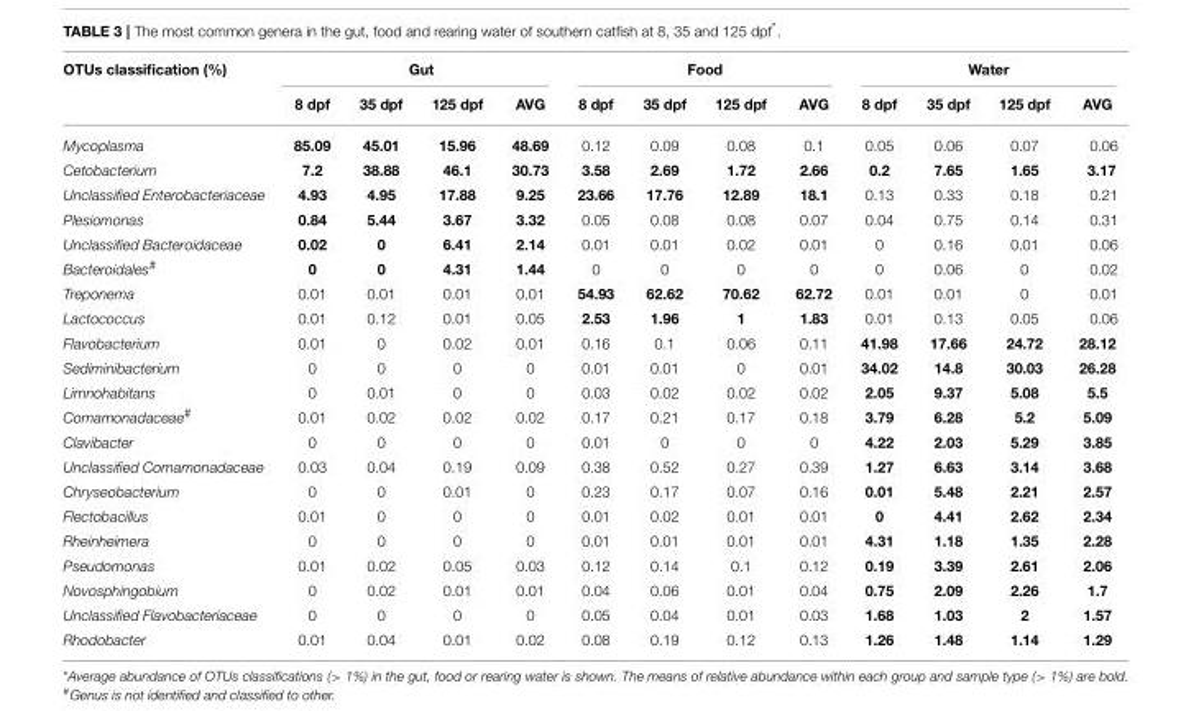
<table><thead><tr><td rowspan="2">OTUs classification (%)</td><td colspan="4">Gut</td><td colspan="4">Food</td><td colspan="4">Water</td></tr><tr><td>8 dpf</td><td>35 dpf</td><td>125 dpf</td><td>AVG</td><td>8 dpf</td><td>35 dpf</td><td>125 dpf</td><td>AVG</td><td>8 dpf</td><td>35 dpf</td><td>125 dpf</td><td>AVG</td></tr></thead><tbody><tr><td>Mycoplasma</td><td>85.09</td><td>45.01</td><td>15.96</td><td>48.69</td><td>0.12</td><td>0.09</td><td>0.08</td><td>0.1</td><td>0.05</td><td>0.06</td><td>0.07</td><td>0.06</td></tr><tr><td>Cetobacterium</td><td>7.2</td><td>38.88</td><td>46.1</td><td>30.73</td><td>3.58</td><td>2.69</td><td>1.72</td><td>2.66</td><td>0.2</td><td>7.65</td><td>1.65</td><td>3.17</td></tr><tr><td>Unclassified Enterobacteriaceae</td><td>4.93</td><td>4.95</td><td>17.88</td><td>9.25</td><td>23.66</td><td>17.76</td><td>12.89</td><td>18.1</td><td>0.13</td><td>0.33</td><td>0.18</td><td>0.21</td></tr><tr><td>Plesiomonas</td><td>0.84</td><td>5.44</td><td>3.67</td><td>3.32</td><td>0.05</td><td>0.08</td><td>0.08</td><td>0.07</td><td>0.04</td><td>0.75</td><td>0.14</td><td>0.31</td></tr><tr><td>Unclassified Bacteroidaceae</td><td>0.02</td><td>0</td><td>6.41</td><td>2.14</td><td>0.01</td><td>0.01</td><td>0.02</td><td>0.01</td><td>0</td><td>0.16</td><td>0.01</td><td>0.06</td></tr><tr><td>Bacteroidales<sup>#</sup></td><td>0</td><td>0</td><td>4.31</td><td>1.44</td><td>0</td><td>0</td><td>0</td><td>0</td><td>0</td><td>0.06</td><td>0</td><td>0.02</td></tr><tr><td>Treponema</td><td>0.01</td><td>0.01</td><td>0.01</td><td>0.01</td><td>54.93</td><td>62.62</td><td>70.62</td><td>62.72</td><td>0.01</td><td>0.01</td><td>0</td><td>0.01</td></tr><tr><td>Lactococcus</td><td>0.01</td><td>0.12</td><td>0.01</td><td>0.05</td><td>2.53</td><td>1.96</td><td>1</td><td>1.83</td><td>0.01</td><td>0.13</td><td>0.05</td><td>0.06</td></tr><tr><td>Flavobacterium</td><td>0.01</td><td>0</td><td>0.02</td><td>0.01</td><td>0.16</td><td>0.1</td><td>0.06</td><td>0.11</td><td>41.98</td><td>17.66</td><td>24.72</td><td>28.12</td></tr><tr><td>Sediminibacterium</td><td>0</td><td>0</td><td>0</td><td>0</td><td>0.01</td><td>0.01</td><td>0</td><td>0.01</td><td>34.02</td><td>14.8</td><td>30.03</td><td>26.28</td></tr><tr><td>Limnohabitans</td><td>0</td><td>0.01</td><td>0</td><td>0</td><td>0.03</td><td>0.02</td><td>0.02</td><td>0.02</td><td>2.05</td><td>9.37</td><td>5.08</td><td>5.5</td></tr><tr><td>Comamonadaceae<sup>#</sup></td><td>0.01</td><td>0.02</td><td>0.02</td><td>0.02</td><td>0.17</td><td>0.21</td><td>0.17</td><td>0.18</td><td>3.79</td><td>6.28</td><td>5.2</td><td>5.09</td></tr><tr><td>Clavibacter</td><td>0</td><td>0</td><td>0</td><td>0</td><td>0.01</td><td>0</td><td>0</td><td>0</td><td>4.22</td><td>2.03</td><td>5.29</td><td>3.85</td></tr><tr><td>Unclassified Comamonadaceae</td><td>0.03</td><td>0.04</td><td>0.19</td><td>0.09</td><td>0.38</td><td>0.52</td><td>0.27</td><td>0.39</td><td>1.27</td><td>6.63</td><td>3.14</td><td>3.68</td></tr><tr><td>Chryseobacterium</td><td>0</td><td>0</td><td>0.01</td><td>0</td><td>0.23</td><td>0.17</td><td>0.07</td><td>0.16</td><td>0.01</td><td>5.48</td><td>2.21</td><td>2.57</td></tr><tr><td>Flectobacillus</td><td>0.01</td><td>0</td><td>0</td><td>0</td><td>0.01</td><td>0.02</td><td>0.01</td><td>0.01</td><td>0</td><td>4.41</td><td>2.62</td><td>2.34</td></tr><tr><td>Rheinheimera</td><td>0</td><td>0</td><td>0</td><td>0</td><td>0.01</td><td>0.01</td><td>0.01</td><td>0.01</td><td>4.31</td><td>1.18</td><td>1.35</td><td>2.28</td></tr><tr><td>Pseudomonas</td><td>0.01</td><td>0.02</td><td>0.05</td><td>0.03</td><td>0.12</td><td>0.14</td><td>0.1</td><td>0.12</td><td>0.19</td><td>3.39</td><td>2.61</td><td>2.06</td></tr><tr><td>Novosphingobium</td><td>0</td><td>0.02</td><td>0.01</td><td>0.01</td><td>0.04</td><td>0.06</td><td>0.01</td><td>0.04</td><td>0.75</td><td>2.09</td><td>2.26</td><td>1.7</td></tr><tr><td>Unclassified Flavobacteriaceae</td><td>0</td><td>0</td><td>0</td><td>0</td><td>0.05</td><td>0.04</td><td>0.01</td><td>0.03</td><td>1.68</td><td>1.03</td><td>2</td><td>1.57</td></tr><tr><td>Rhodobacter</td><td>0.01</td><td>0.04</td><td>0.01</td><td>0.02</td><td>0.08</td><td>0.19</td><td>0.12</td><td>0.13</td><td>1.26</td><td>1.48</td><td>1.14</td><td>1.29</td></tr></tbody></table>